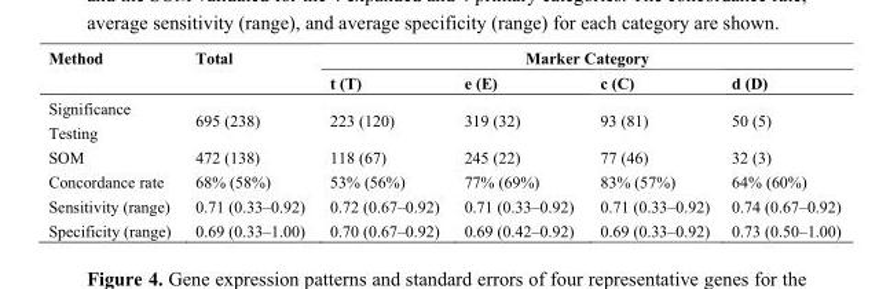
<table><thead><tr><td rowspan="2">Method</td><td rowspan="2">Total</td><td colspan="4">Marker Category</td></tr><tr><td>t (T)</td><td>e (E)</td><td>c (C)</td><td>d (D)</td></tr></thead><tbody><tr><td>Significance Testing</td><td>695 (238)</td><td>223 (120)</td><td>319 (32)</td><td>93 (81)</td><td>50 (5)</td></tr><tr><td>SOM</td><td>472 (138)</td><td>118 (67)</td><td>245 (22)</td><td>77 (46)</td><td>32 (3)</td></tr><tr><td>Concordance rate</td><td>68% (58%)</td><td>53% (56%)</td><td>77% (69%)</td><td>83% (57%)</td><td>64% (60%)</td></tr><tr><td>Sensitivity (range)</td><td>0.71 (0.33–0.92)</td><td>0.72 (0.67–0.92)</td><td>0.71 (0.33–0.92)</td><td>0.71 (0.33–0.92)</td><td>0.74 (0.67–0.92)</td></tr><tr><td>Specificity (range)</td><td>0.69 (0.33–1.00)</td><td>0.70 (0.67–0.92)</td><td>0.69 (0.42–0.92)</td><td>0.69 (0.33–0.92)</td><td>0.73 (0.50–1.00)</td></tr></tbody></table>